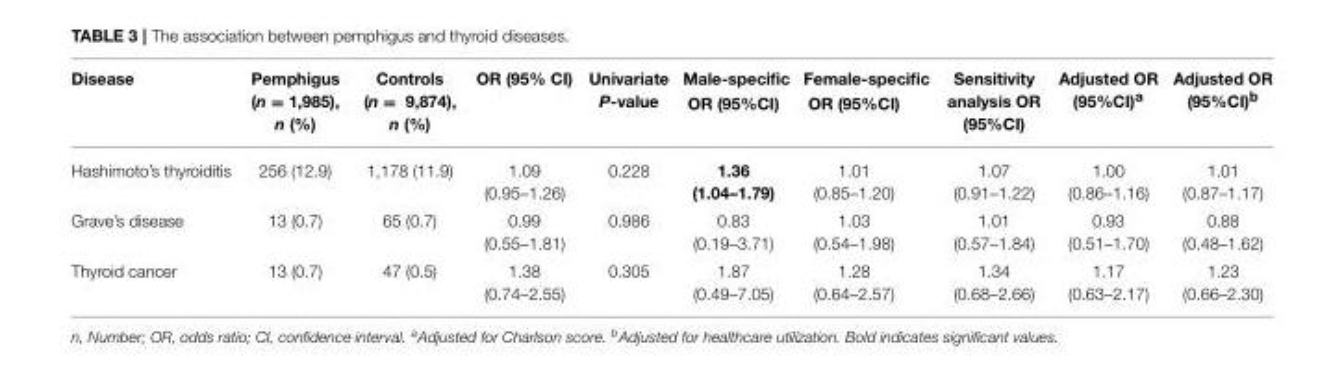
<table><thead><tr><td>Disease</td><td>Pemphigus (n = 1,985), n (%)</td><td>Controls (n = 9,874), n (%)</td><td>OR (95% CI)</td><td>Univariate P-value</td><td>Male-specific OR (95%CI)</td><td>Female-specific OR (95%CI)</td><td>Sensitivity analysis OR (95%CI)</td><td>Adjusted OR (95%CI)<sup>a</sup></td><td>Adjusted OR (95%CI)<sup>b</sup></td></tr></thead><tbody><tr><td>Hashimoto’s thyroiditis</td><td>256 (12.9)</td><td>1,178 (11.9)</td><td>1.09 (0.95–1.26)</td><td>0.228</td><td>1.36 (1.04–1.79)</td><td>1.01 (0.85–1.20)</td><td>1.07 (0.91–1.22)</td><td>1.00 (0.86–1.16)</td><td>1.01 (0.87–1.17)</td></tr><tr><td>Grave’s disease</td><td>13 (0.7)</td><td>65 (0.7)</td><td>0.99 (0.55–1.81)</td><td>0.986</td><td>0.83 (0.19–3.71)</td><td>1.03 (0.54–1.98)</td><td>1.01 (0.57–1.84)</td><td>0.93 (0.51–1.70)</td><td>0.88 (0.48–1.62)</td></tr><tr><td>Thyroid cancer</td><td>13 (0.7)</td><td>47 (0.5)</td><td>1.38 (0.74–2.55)</td><td>0.305</td><td>1.87 (0.49–7.05)</td><td>1.28 (0.64–2.57)</td><td>1.34 (0.68–2.66)</td><td>1.17 (0.63–2.17)</td><td>1.23 (0.66–2.30)</td></tr></tbody></table>